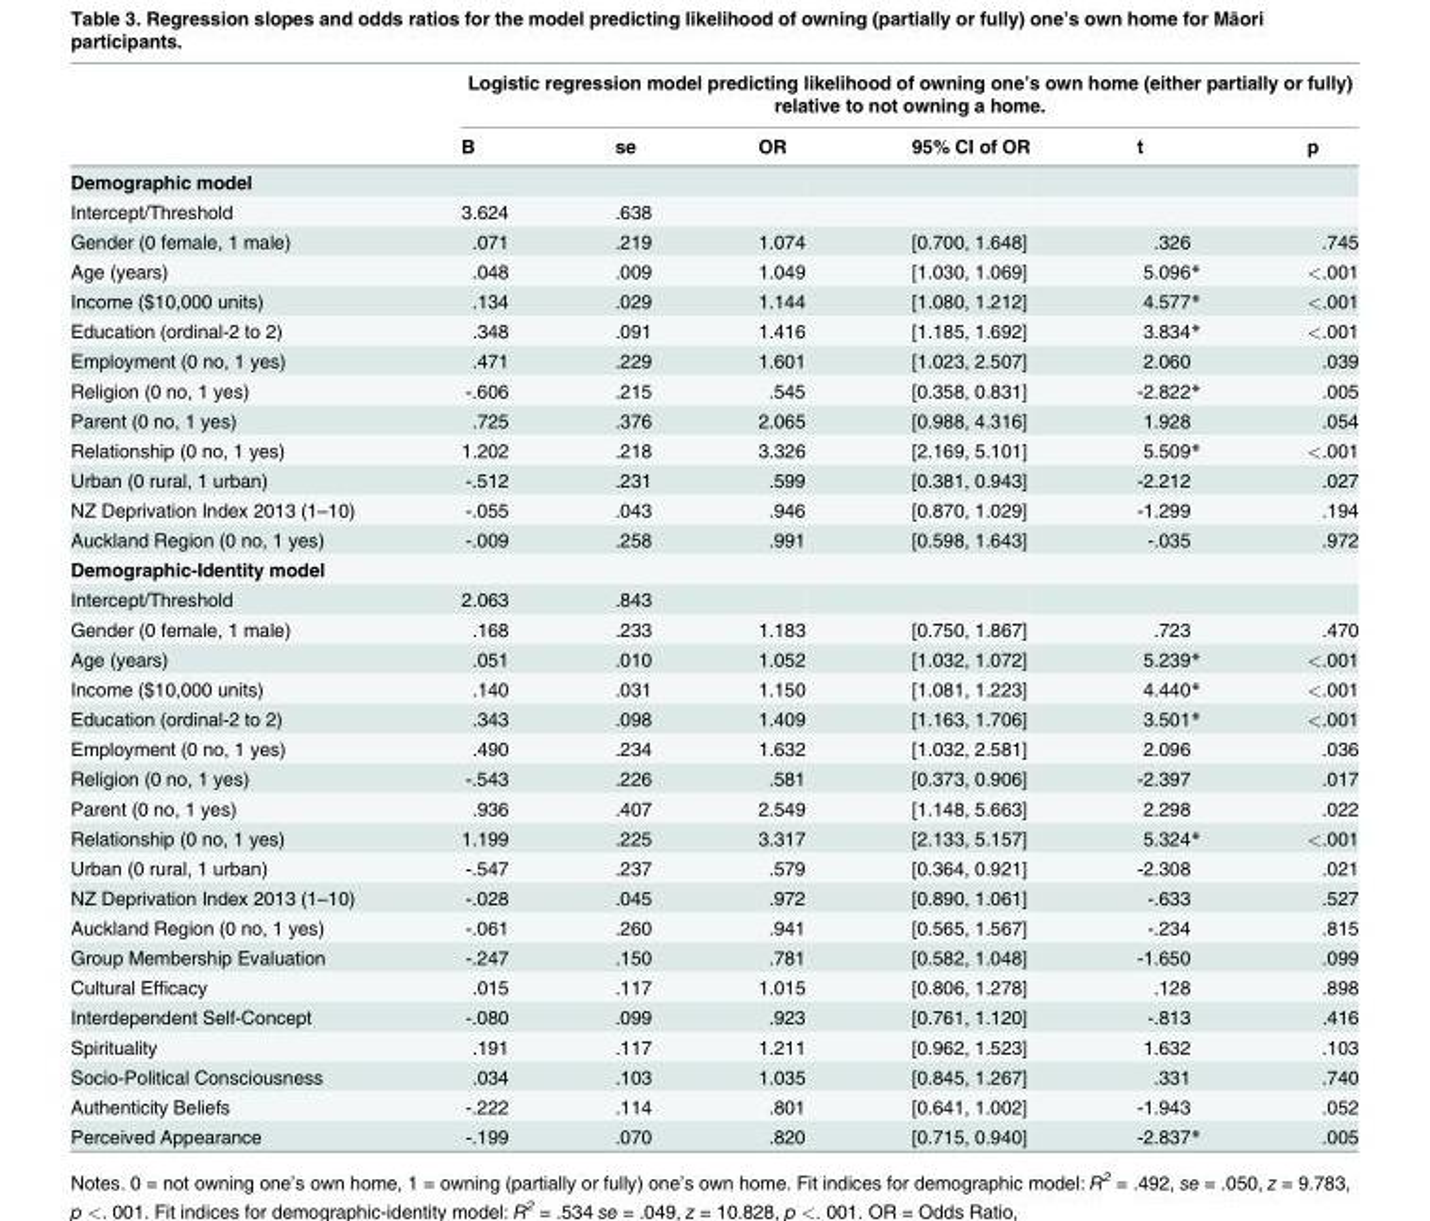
<table><thead><tr><td rowspan="2"></td><td colspan="6">Logistic regression model predicting likelihood of owning one’s own home (either partially or fully) relative to not owning a home.</td></tr><tr><td>B</td><td>se</td><td>OR</td><td>95% CI of OR</td><td>t</td><td>p</td></tr></thead><tbody><tr><td colspan="7">Demographic model</td></tr><tr><td>Intercept/Threshold</td><td>3.624</td><td>.638</td><td></td><td></td><td></td><td></td></tr><tr><td>Gender (0 female, 1 male)</td><td>.071</td><td>.219</td><td>1.074</td><td>[0.700, 1.648]</td><td>.326</td><td>.745</td></tr><tr><td>Age (years)</td><td>.048</td><td>.009</td><td>1.049</td><td>[1.030, 1.069]</td><td>5.096*</td><td>&lt;.001</td></tr><tr><td>Income ($10,000 units)</td><td>.134</td><td>.029</td><td>1.144</td><td>[1.080, 1.212]</td><td>4.577*</td><td>&lt;.001</td></tr><tr><td>Education (ordinal-2 to 2)</td><td>.348</td><td>.091</td><td>1.416</td><td>[1.185, 1.692]</td><td>3.834*</td><td>&lt;.001</td></tr><tr><td>Employment (0 no, 1 yes)</td><td>.471</td><td>.229</td><td>1.601</td><td>[1.023, 2.507]</td><td>2.060</td><td>.039</td></tr><tr><td>Religion (0 no, 1 yes)</td><td>-.606</td><td>.215</td><td>.545</td><td>[0.358, 0.831]</td><td>-2.822*</td><td>.005</td></tr><tr><td>Parent (0 no, 1 yes)</td><td>.725</td><td>.376</td><td>2.065</td><td>[0.988, 4.316]</td><td>1.928</td><td>.054</td></tr><tr><td>Relationship (0 no, 1 yes)</td><td>1.202</td><td>.218</td><td>3.326</td><td>[2.169, 5.101]</td><td>5.509*</td><td>&lt;.001</td></tr><tr><td>Urban (0 rural, 1 urban)</td><td>-.512</td><td>.231</td><td>.599</td><td>[0.381, 0.943]</td><td>-2.212</td><td>.027</td></tr><tr><td>NZ Deprivation Index 2013 (1–10)</td><td>-.055</td><td>.043</td><td>.946</td><td>[0.870, 1.029]</td><td>-1.299</td><td>.194</td></tr><tr><td>Auckland Region (0 no, 1 yes)</td><td>-.009</td><td>.258</td><td>.991</td><td>[0.598, 1.643]</td><td>-.035</td><td>.972</td></tr><tr><td colspan="7">Demographic-Identity model</td></tr><tr><td>Intercept/Threshold</td><td>2.063</td><td>.843</td><td></td><td></td><td></td><td></td></tr><tr><td>Gender (0 female, 1 male)</td><td>.168</td><td>.233</td><td>1.183</td><td>[0.750, 1.867]</td><td>.723</td><td>.470</td></tr><tr><td>Age (years)</td><td>.051</td><td>.010</td><td>1.052</td><td>[1.032, 1.072]</td><td>5.239*</td><td>&lt;.001</td></tr><tr><td>Income ($10,000 units)</td><td>.140</td><td>.031</td><td>1.150</td><td>[1.081, 1.223]</td><td>4.440*</td><td>&lt;.001</td></tr><tr><td>Education (ordinal-2 to 2)</td><td>.343</td><td>.098</td><td>1.409</td><td>[1.163, 1.706]</td><td>3.501*</td><td>&lt;.001</td></tr><tr><td>Employment (0 no, 1 yes)</td><td>.490</td><td>.234</td><td>1.632</td><td>[1.032, 2.581]</td><td>2.096</td><td>.036</td></tr><tr><td>Religion (0 no, 1 yes)</td><td>-.543</td><td>.226</td><td>.581</td><td>[0.373, 0.906]</td><td>-2.397</td><td>.017</td></tr><tr><td>Parent (0 no, 1 yes)</td><td>.936</td><td>.407</td><td>2.549</td><td>[1.148, 5.663]</td><td>2.298</td><td>.022</td></tr><tr><td>Relationship (0 no, 1 yes)</td><td>1.199</td><td>.225</td><td>3.317</td><td>[2.133, 5.157]</td><td>5.324*</td><td>&lt;.001</td></tr><tr><td>Urban (0 rural, 1 urban)</td><td>-.547</td><td>.237</td><td>.579</td><td>[0.364, 0.921]</td><td>-2.308</td><td>.021</td></tr><tr><td>NZ Deprivation Index 2013 (1–10)</td><td>-.028</td><td>.045</td><td>.972</td><td>[0.890, 1.061]</td><td>-.633</td><td>.527</td></tr><tr><td>Auckland Region (0 no, 1 yes)</td><td>-.061</td><td>.260</td><td>.941</td><td>[0.565, 1.567]</td><td>-.234</td><td>.815</td></tr><tr><td>Group Membership Evaluation</td><td>-.247</td><td>.150</td><td>.781</td><td>[0.582, 1.048]</td><td>-1.650</td><td>.099</td></tr><tr><td>Cultural Efficacy</td><td>.015</td><td>.117</td><td>1.015</td><td>[0.806, 1.278]</td><td>.128</td><td>.898</td></tr><tr><td>Interdependent Self-Concept</td><td>-.080</td><td>.099</td><td>.923</td><td>[0.761, 1.120]</td><td>-.813</td><td>.416</td></tr><tr><td>Spirituality</td><td>.191</td><td>.117</td><td>1.211</td><td>[0.962, 1.523]</td><td>1.632</td><td>.103</td></tr><tr><td>Socio-Political Consciousness</td><td>.034</td><td>.103</td><td>1.035</td><td>[0.845, 1.267]</td><td>.331</td><td>.740</td></tr><tr><td>Authenticity Beliefs</td><td>-.222</td><td>.114</td><td>.801</td><td>[0.641, 1.002]</td><td>-1.943</td><td>.052</td></tr><tr><td>Perceived Appearance</td><td>-.199</td><td>.070</td><td>.820</td><td>[0.715, 0.940]</td><td>-2.837*</td><td>.005</td></tr></tbody></table>